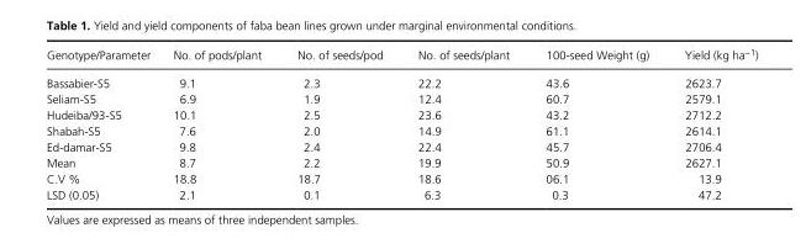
<table><thead><tr><td>Genotype/Parameter</td><td>No. of pods/plant</td><td>No. of seeds/pod</td><td>No. of seeds/plant</td><td>100- seed Weight (g)</td><td>Yield (kg ha<sup>−1</sup>)</td></tr></thead><tbody><tr><td>Bassabier- S5</td><td>9.1</td><td>2.3</td><td>22.2</td><td>43.6</td><td>2623.7</td></tr><tr><td>Seliam- S5</td><td>6.9</td><td>1.9</td><td>12.4</td><td>60.7</td><td>2579.1</td></tr><tr><td>Hudeiba/93- S5</td><td>10.1</td><td>2.5</td><td>23.6</td><td>43.2</td><td>2712.2</td></tr><tr><td>Shabah- S5</td><td>7.6</td><td>2.0</td><td>14.9</td><td>61.1</td><td>2614.1</td></tr><tr><td>Ed- damar- S5</td><td>9.8</td><td>2.4</td><td>22.4</td><td>45.7</td><td>2706.4</td></tr><tr><td>Mean</td><td>8.7</td><td>2.2</td><td>19.9</td><td>50.9</td><td>2627.1</td></tr><tr><td>C.V %</td><td>18.8</td><td>18.7</td><td>18.6</td><td>06.1</td><td>13.9</td></tr><tr><td>LSD (0.05)</td><td>2.1</td><td>0.1</td><td>6.3</td><td>0.3</td><td>47.2</td></tr></tbody></table>